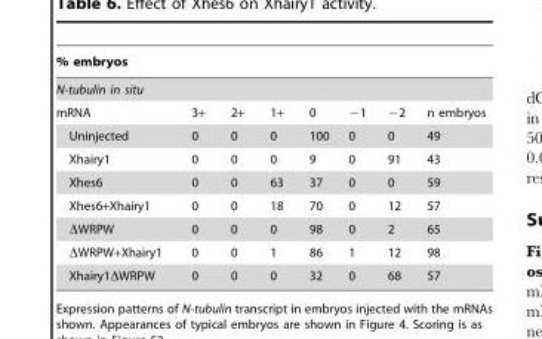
<table><thead><tr><td rowspan="2" colspan="8">% embryos N-tubulin in situ</td></tr><tr></tr><tr><td>mRNA</td><td>3+</td><td>2+</td><td>1+</td><td>0</td><td>−1</td><td>−2</td><td>n embryos</td></tr></thead><tbody><tr><td>Uninjected</td><td>0</td><td>0</td><td>0</td><td>100</td><td>0</td><td>0</td><td>49</td></tr><tr><td>Xhairy1</td><td>0</td><td>0</td><td>0</td><td>9</td><td>0</td><td>91</td><td>43</td></tr><tr><td>Xhes6</td><td>0</td><td>0</td><td>63</td><td>37</td><td>0</td><td>0</td><td>59</td></tr><tr><td>Xhes6+Xhairy1</td><td>0</td><td>0</td><td>18</td><td>70</td><td>0</td><td>12</td><td>57</td></tr><tr><td>ΔWRPW</td><td>0</td><td>0</td><td>0</td><td>98</td><td>0</td><td>2</td><td>65</td></tr><tr><td>ΔWRPW+Xhairy1</td><td>0</td><td>0</td><td>1</td><td>86</td><td>1</td><td>12</td><td>98</td></tr><tr><td>Xhairy1ΔWRPW</td><td>0</td><td>0</td><td>0</td><td>32</td><td>0</td><td>68</td><td>57</td></tr></tbody></table>